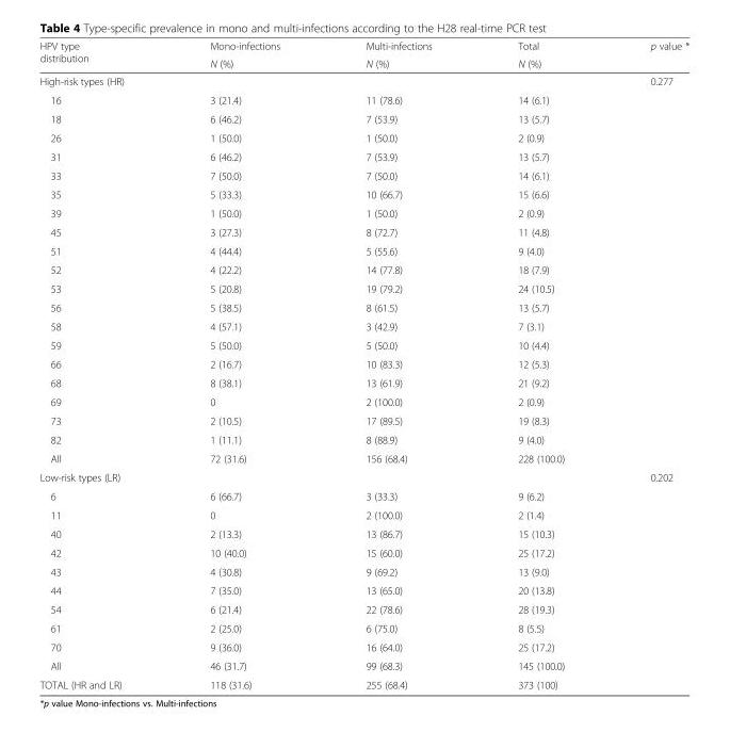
<table><thead><tr><td rowspan="2">HPV type distribution</td><td rowspan="2">Mono-infections N (%)</td><td rowspan="2">Multi-infections N (%)</td><td rowspan="2">Total N (%)</td><td rowspan="2">p value *</td></tr><tr></tr></thead><tbody><tr><td>High-risk types (HR)</td><td></td><td></td><td></td><td>0.277</td></tr><tr><td>16</td><td>3 (21.4)</td><td>11 (78.6)</td><td>14 (6.1)</td><td></td></tr><tr><td>18</td><td>6 (46.2)</td><td>7 (53.9)</td><td>13 (5.7)</td><td></td></tr><tr><td>26</td><td>1 (50.0)</td><td>1 (50.0)</td><td>2 (0.9)</td><td></td></tr><tr><td>31</td><td>6 (46.2)</td><td>7 (53.9)</td><td>13 (5.7)</td><td></td></tr><tr><td>33</td><td>7 (50.0)</td><td>7 (50.0)</td><td>14 (6.1)</td><td></td></tr><tr><td>35</td><td>5 (33.3)</td><td>10 (66.7)</td><td>15 (6.6)</td><td></td></tr><tr><td>39</td><td>1 (50.0)</td><td>1 (50.0)</td><td>2 (0.9)</td><td></td></tr><tr><td>45</td><td>3 (27.3)</td><td>8 (72.7)</td><td>11 (4.8)</td><td></td></tr><tr><td>51</td><td>4 (44.4)</td><td>5 (55.6)</td><td>9 (4.0)</td><td></td></tr><tr><td>52</td><td>4 (22.2)</td><td>14 (77.8)</td><td>18 (7.9)</td><td></td></tr><tr><td>53</td><td>5 (20.8)</td><td>19 (79.2)</td><td>24 (10.5)</td><td></td></tr><tr><td>56</td><td>5 (38.5)</td><td>8 (61.5)</td><td>13 (5.7)</td><td></td></tr><tr><td>58</td><td>4 (57.1)</td><td>3 (42.9)</td><td>7 (3.1)</td><td></td></tr><tr><td>59</td><td>5 (50.0)</td><td>5 (50.0)</td><td>10 (4.4)</td><td></td></tr><tr><td>66</td><td>2 (16.7)</td><td>10 (83.3)</td><td>12 (5.3)</td><td></td></tr><tr><td>68</td><td>8 (38.1)</td><td>13 (61.9)</td><td>21 (9.2)</td><td></td></tr><tr><td>69</td><td>0</td><td>2 (100.0)</td><td>2 (0.9)</td><td></td></tr><tr><td>73</td><td>2 (10.5)</td><td>17 (89.5)</td><td>19 (8.3)</td><td></td></tr><tr><td>82</td><td>1 (11.1)</td><td>8 (88.9)</td><td>9 (4.0)</td><td></td></tr><tr><td>All</td><td>72 (31.6)</td><td>156 (68.4)</td><td>228 (100.0)</td><td></td></tr><tr><td>Low-risk types (LR)</td><td></td><td></td><td></td><td>0.202</td></tr><tr><td>6</td><td>6 (66.7)</td><td>3 (33.3)</td><td>9 (6.2)</td><td></td></tr><tr><td>11</td><td>0</td><td>2 (100.0)</td><td>2 (1.4)</td><td></td></tr><tr><td>40</td><td>2 (13.3)</td><td>13 (86.7)</td><td>15 (10.3)</td><td></td></tr><tr><td>42</td><td>10 (40.0)</td><td>15 (60.0)</td><td>25 (17.2)</td><td></td></tr><tr><td>43</td><td>4 (30.8)</td><td>9 (69.2)</td><td>13 (9.0)</td><td></td></tr><tr><td>44</td><td>7 (35.0)</td><td>13 (65.0)</td><td>20 (13.8)</td><td></td></tr><tr><td>54</td><td>6 (21.4)</td><td>22 (78.6)</td><td>28 (19.3)</td><td></td></tr><tr><td>61</td><td>2 (25.0)</td><td>6 (75.0)</td><td>8 (5.5)</td><td></td></tr><tr><td>70</td><td>9 (36.0)</td><td>16 (64.0)</td><td>25 (17.2)</td><td></td></tr><tr><td>All</td><td>46 (31.7)</td><td>99 (68.3)</td><td>145 (100.0)</td><td></td></tr><tr><td>TOTAL (HR and LR)</td><td>118 (31.6)</td><td>255 (68.4)</td><td>373 (100)</td><td></td></tr></tbody></table>